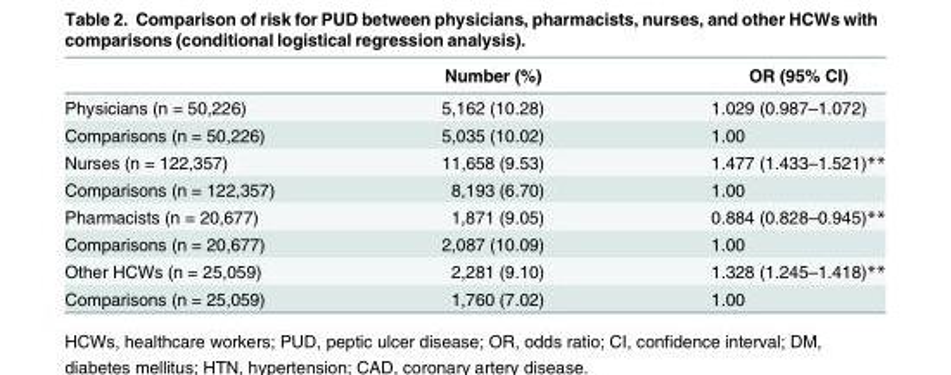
<table><thead><tr><td></td><td>Number (%)</td><td>OR (95% CI)</td></tr></thead><tbody><tr><td>Physicians (n = 50,226)</td><td>5,162 (10.28)</td><td>1.029 (0.987–1.072)</td></tr><tr><td>Comparisons (n = 50,226)</td><td>5,035 (10.02)</td><td>1.00</td></tr><tr><td>Nurses (n = 122,357)</td><td>11,658 (9.53)</td><td>1.477 (1.433–1.521)**</td></tr><tr><td>Comparisons (n = 122,357)</td><td>8,193 (6.70)</td><td>1.00</td></tr><tr><td>Pharmacists (n = 20,677)</td><td>1,871 (9.05)</td><td>0.884 (0.828–0.945)**</td></tr><tr><td>Comparisons (n = 20,677)</td><td>2,087 (10.09)</td><td>1.00</td></tr><tr><td>Other HCWs (n = 25,059)</td><td>2,281 (9.10)</td><td>1.328 (1.245–1.418)**</td></tr><tr><td>Comparisons (n = 25,059)</td><td>1,760 (7.02)</td><td>1.00</td></tr></tbody></table>